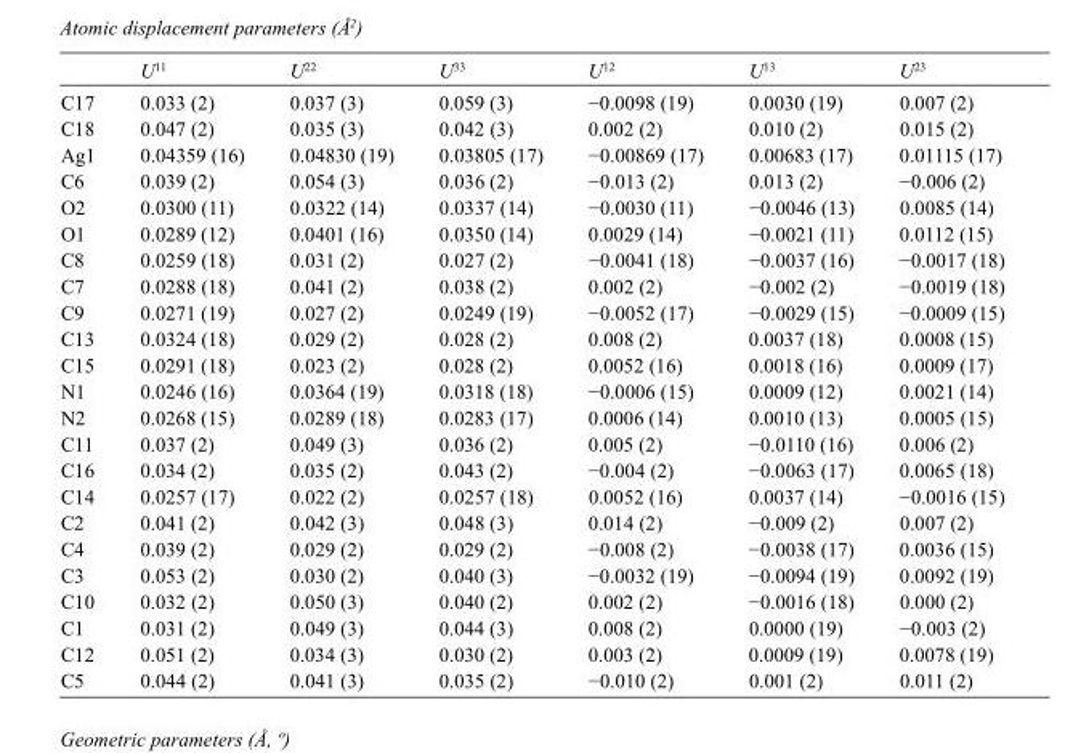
<table><thead><tr><td></td><td>U<sup>11</sup></td><td>U<sup>22</sup></td><td>U<sup>33</sup></td><td>U<sup>12</sup></td><td>U<sup>13</sup></td><td>U<sup>23</sup></td></tr></thead><tbody><tr><td>C17</td><td>0.033 (2)</td><td>0.037 (3)</td><td>0.059 (3)</td><td>−0.0098 (19)</td><td>0.0030 (19)</td><td>0.007 (2)</td></tr><tr><td>C18</td><td>0.047 (2)</td><td>0.035 (3)</td><td>0.042 (3)</td><td>0.002 (2)</td><td>0.010 (2)</td><td>0.015 (2)</td></tr><tr><td>Ag1</td><td>0.04359 (16)</td><td>0.04830 (19)</td><td>0.03805 (17)</td><td>−0.00869 (17)</td><td>0.00683 (17)</td><td>0.01115 (17)</td></tr><tr><td>C6</td><td>0.039 (2)</td><td>0.054 (3)</td><td>0.036 (2)</td><td>−0.013 (2)</td><td>0.013 (2)</td><td>−0.006 (2)</td></tr><tr><td>O2</td><td>0.0300 (11)</td><td>0.0322 (14)</td><td>0.0337 (14)</td><td>−0.0030 (11)</td><td>−0.0046 (13)</td><td>0.0085 (14)</td></tr><tr><td>O1</td><td>0.0289 (12)</td><td>0.0401 (16)</td><td>0.0350 (14)</td><td>0.0029 (14)</td><td>−0.0021 (11)</td><td>0.0112 (15)</td></tr><tr><td>C8</td><td>0.0259 (18)</td><td>0.031 (2)</td><td>0.027 (2)</td><td>−0.0041 (18)</td><td>−0.0037 (16)</td><td>−0.0017 (18)</td></tr><tr><td>C7</td><td>0.0288 (18)</td><td>0.041 (2)</td><td>0.038 (2)</td><td>0.002 (2)</td><td>−0.002 (2)</td><td>−0.0019 (18)</td></tr><tr><td>C9</td><td>0.0271 (19)</td><td>0.027 (2)</td><td>0.0249 (19)</td><td>−0.0052 (17)</td><td>−0.0029 (15)</td><td>−0.0009 (15)</td></tr><tr><td>C13</td><td>0.0324 (18)</td><td>0.029 (2)</td><td>0.028 (2)</td><td>0.008 (2)</td><td>0.0037 (18)</td><td>0.0008 (15)</td></tr><tr><td>C15</td><td>0.0291 (18)</td><td>0.023 (2)</td><td>0.028 (2)</td><td>0.0052 (16)</td><td>0.0018 (16)</td><td>0.0009 (17)</td></tr><tr><td>N1</td><td>0.0246 (16)</td><td>0.0364 (19)</td><td>0.0318 (18)</td><td>−0.0006 (15)</td><td>0.0009 (12)</td><td>0.0021 (14)</td></tr><tr><td>N2</td><td>0.0268 (15)</td><td>0.0289 (18)</td><td>0.0283 (17)</td><td>0.0006 (14)</td><td>0.0010 (13)</td><td>0.0005 (15)</td></tr><tr><td>C11</td><td>0.037 (2)</td><td>0.049 (3)</td><td>0.036 (2)</td><td>0.005 (2)</td><td>−0.0110 (16)</td><td>0.006 (2)</td></tr><tr><td>C16</td><td>0.034 (2)</td><td>0.035 (2)</td><td>0.043 (2)</td><td>−0.004 (2)</td><td>−0.0063 (17)</td><td>0.0065 (18)</td></tr><tr><td>C14</td><td>0.0257 (17)</td><td>0.022 (2)</td><td>0.0257 (18)</td><td>0.0052 (16)</td><td>0.0037 (14)</td><td>−0.0016 (15)</td></tr><tr><td>C2</td><td>0.041 (2)</td><td>0.042 (3)</td><td>0.048 (3)</td><td>0.014 (2)</td><td>−0.009 (2)</td><td>0.007 (2)</td></tr><tr><td>C4</td><td>0.039 (2)</td><td>0.029 (2)</td><td>0.029 (2)</td><td>−0.008 (2)</td><td>−0.0038 (17)</td><td>0.0036 (15)</td></tr><tr><td>C3</td><td>0.053 (2)</td><td>0.030 (2)</td><td>0.040 (3)</td><td>−0.0032 (19)</td><td>−0.0094 (19)</td><td>0.0092 (19)</td></tr><tr><td>C10</td><td>0.032 (2)</td><td>0.050 (3)</td><td>0.040 (2)</td><td>0.002 (2)</td><td>−0.0016 (18)</td><td>0.000 (2)</td></tr><tr><td>C1</td><td>0.031 (2)</td><td>0.049 (3)</td><td>0.044 (3)</td><td>0.008 (2)</td><td>0.0000 (19)</td><td>−0.003 (2)</td></tr><tr><td>C12</td><td>0.051 (2)</td><td>0.034 (3)</td><td>0.030 (2)</td><td>0.003 (2)</td><td>0.0009 (19)</td><td>0.0078 (19)</td></tr><tr><td>C5</td><td>0.044 (2)</td><td>0.041 (3)</td><td>0.035 (2)</td><td>−0.010 (2)</td><td>0.001 (2)</td><td>0.011 (2)</td></tr></tbody></table>